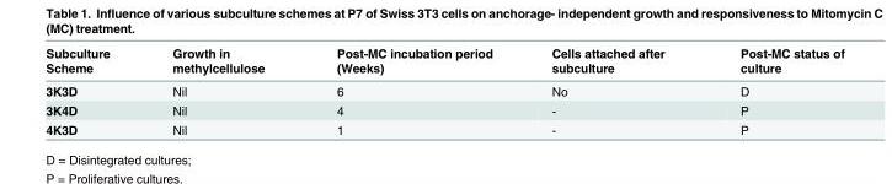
<table><thead><tr><td>Subculture Scheme</td><td>Growth in methylcellulose</td><td>Post-MC incubation period (Weeks)</td><td>Cells attached after subculture</td><td>Post-MC status of culture</td></tr></thead><tbody><tr><td>3K3D</td><td>Nil</td><td>6</td><td>No</td><td>D</td></tr><tr><td>3K4D</td><td>Nil</td><td>4</td><td>-</td><td>P</td></tr><tr><td>4K3D</td><td>Nil</td><td>1</td><td>-</td><td>P</td></tr></tbody></table>